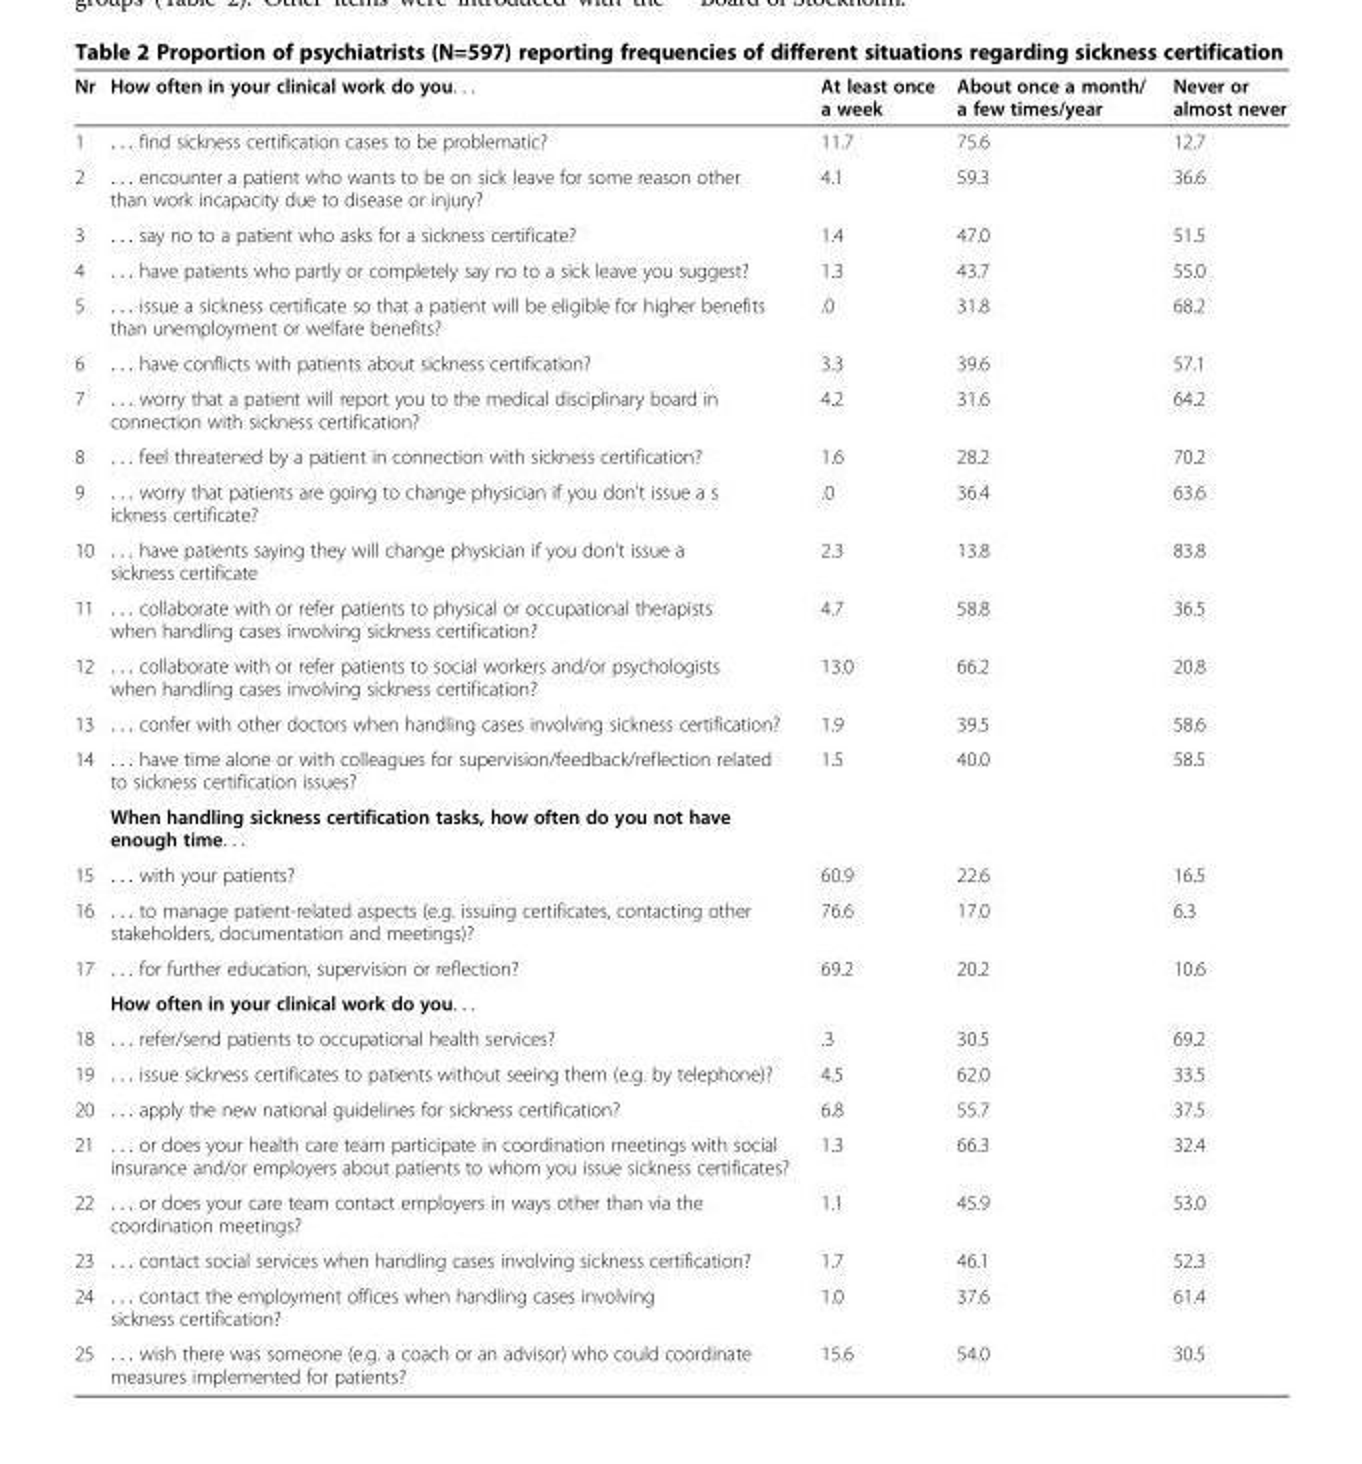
<table><thead><tr><td>Nr</td><td>How often in your clinical work do you. . .</td><td>At least once a week</td><td>About once a month/ a few times/year</td><td>Never or almost never</td></tr></thead><tbody><tr><td>1</td><td>. . . find sickness certification cases to be problematic?</td><td>11.7</td><td>75.6</td><td>12.7</td></tr><tr><td>2</td><td>. . . encounter a patient who wants to be on sick leave for some reason other than work incapacity due to disease or injury?</td><td>4.1</td><td>59.3</td><td>36.6</td></tr><tr><td>3</td><td>. . . say no to a patient who asks for a sickness certificate?</td><td>1.4</td><td>47.0</td><td>51.5</td></tr><tr><td>4</td><td>. . . have patients who partly or completely say no to a sick leave you suggest?</td><td>1.3</td><td>43.7</td><td>55.0</td></tr><tr><td>5</td><td>. . . issue a sickness certificate so that a patient will be eligible for higher benefits than unemployment or welfare benefits?</td><td>.0</td><td>31.8</td><td>68.2</td></tr><tr><td>6</td><td>. . . have conflicts with patients about sickness certification?</td><td>3.3</td><td>39.6</td><td>57.1</td></tr><tr><td>7</td><td>. . . worry that a patient will report you to the medical disciplinary board in connection with sickness certification?</td><td>4.2</td><td>31.6</td><td>64.2</td></tr><tr><td>8</td><td>. . . feel threatened by a patient in connection with sickness certification?</td><td>1.6</td><td>28.2</td><td>70.2</td></tr><tr><td>9</td><td>. . . worry that patients are going to change physician if you don’t issue a s ickness certificate?</td><td>.0</td><td>36.4</td><td>63.6</td></tr><tr><td>10</td><td>. . . have patients saying they will change physician if you don’t issue a sickness certificate</td><td>2.3</td><td>13.8</td><td>83.8</td></tr><tr><td>11</td><td>. . . collaborate with or refer patients to physical or occupational therapists when handling cases involving sickness certification?</td><td>4.7</td><td>58.8</td><td>36.5</td></tr><tr><td>12</td><td>. . . collaborate with or refer patients to social workers and/or psychologists when handling cases involving sickness certification?</td><td>13.0</td><td>66.2</td><td>20.8</td></tr><tr><td>13</td><td>. . . confer with other doctors when handling cases involving sickness certification?</td><td>1.9</td><td>39.5</td><td>58.6</td></tr><tr><td rowspan="2">14</td><td>. . . have time alone or with colleagues for supervision/feedback/reflection related to sickness certification issues?</td><td>1.5</td><td>40.0</td><td>58.5</td></tr><tr><td>When handling sickness certification tasks, how often do you not have enough time. . .</td><td></td><td></td><td></td></tr><tr><td>15</td><td>. . . with your patients?</td><td>60.9</td><td>22.6</td><td>16.5</td></tr><tr><td>16</td><td>. . . to manage patient-related aspects (e.g. issuing certificates, contacting other stakeholders, documentation and meetings)?</td><td>76.6</td><td>17.0</td><td>6.3</td></tr><tr><td rowspan="2">17</td><td>. . . for further education, supervision or reflection?</td><td>69.2</td><td>20.2</td><td>10.6</td></tr><tr><td>How often in your clinical work do you. . .</td><td></td><td></td><td></td></tr><tr><td>18</td><td>. . . refer/send patients to occupational health services?</td><td>.3</td><td>30.5</td><td>69.2</td></tr><tr><td>19</td><td>. . . issue sickness certificates to patients without seeing them (e.g. by telephone)?</td><td>4.5</td><td>62.0</td><td>33.5</td></tr><tr><td>20</td><td>. . . apply the new national guidelines for sickness certification?</td><td>6.8</td><td>55.7</td><td>37.5</td></tr><tr><td>21</td><td>. . . or does your health care team participate in coordination meetings with social insurance and/or employers about patients to whom you issue sickness certificates?</td><td>1.3</td><td>66.3</td><td>32.4</td></tr><tr><td>22</td><td>. . . or does your care team contact employers in ways other than via the coordination meetings?</td><td>1.1</td><td>45.9</td><td>53.0</td></tr><tr><td>23</td><td>. . . contact social services when handling cases involving sickness certification?</td><td>1.7</td><td>46.1</td><td>52.3</td></tr><tr><td>24</td><td>. . . contact the employment offices when handling cases involving sickness certification?</td><td>1.0</td><td>37.6</td><td>61.4</td></tr><tr><td>25</td><td>. . . wish there was someone (e.g. a coach or an advisor) who could coordinate measures implemented for patients?</td><td>15.6</td><td>54.0</td><td>30.5</td></tr></tbody></table>